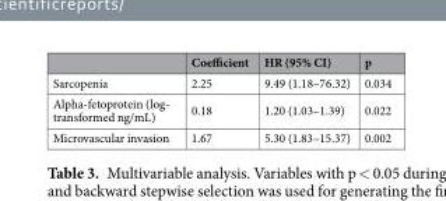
<table><thead><tr><td></td><td>Coefficient</td><td>HR (95% CI)</td><td>p</td></tr></thead><tbody><tr><td>Sarcopenia</td><td>2.25</td><td>9.49 (1.18–76.32)</td><td>0.034</td></tr><tr><td>Alpha-fetoprotein (log- transformed ng/mL)</td><td>0.18</td><td>1.20 (1.03–1.39)</td><td>0.022</td></tr><tr><td>Microvascular invasion</td><td>1.67</td><td>5.30 (1.83–15.37)</td><td>0.002</td></tr></tbody></table>